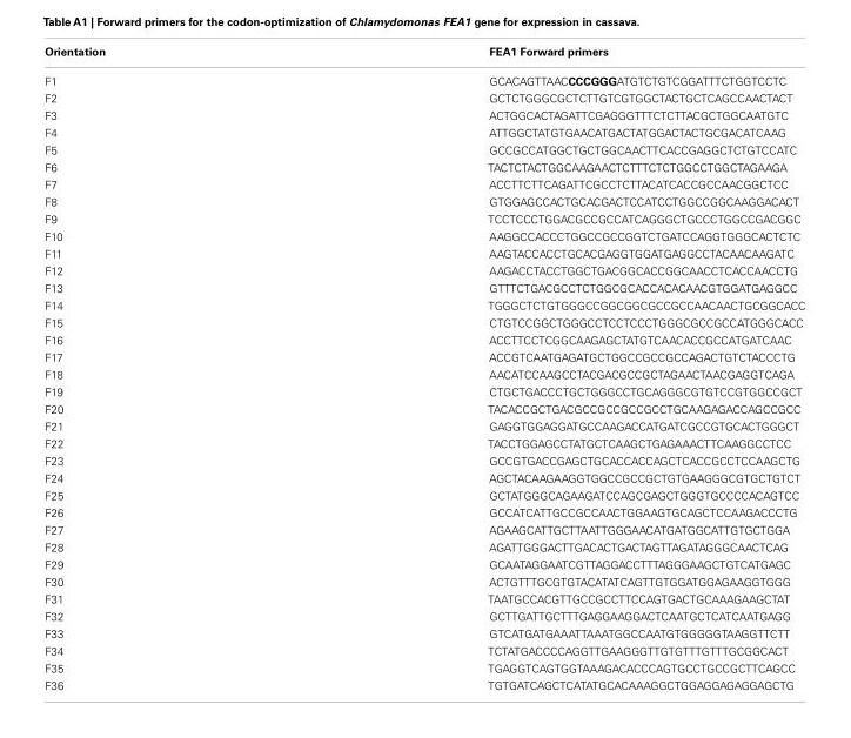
<table><thead><tr><td>Orientation</td><td>FEA1 Forward primers</td></tr></thead><tbody><tr><td>F1</td><td>GCACAGTTAACCCCGGGATGTCTGTCGGATTTCTGGTCCTC</td></tr><tr><td>F2</td><td>GCTCTGGGCGCTCTTGTCGTGGCTACTGCTCAGCCAACTACT</td></tr><tr><td>F3</td><td>ACTGGCACTAGATTCGAGGGTTTCTCTTACGCTGGCAATGTC</td></tr><tr><td>F4</td><td>ATTGGCTATGTGAACATGACTATGGACTACTGCGACATCAAG</td></tr><tr><td>F5</td><td>GCCGCCATGGCTGCTGGCAACTTCACCGAGGCTCTGTCCATC</td></tr><tr><td>F6</td><td>TACTCTACTGGCAAGAACTCTTTCTCTGGCCTGGCTAGAAGA</td></tr><tr><td>F7</td><td>ACCTTCTTCAGATTCGCCTCTTACATCACCGCCAACGGCTCC</td></tr><tr><td>F8</td><td>GTGGAGCCACTGCACGACTCCATCCTGGCCGGCAAGGACACT</td></tr><tr><td>F9</td><td>TCCTCCCTGGACGCCGCCATCAGGGCTGCCCTGGCCGACGGC</td></tr><tr><td>F10</td><td>AAGGCCACCCTGGCCGCCGGTCTGATCCAGGTGGGCACTCTC</td></tr><tr><td>F11</td><td>AAGTACCACCTGCACGAGGTGGATGAGGCCTACAACAAGATC</td></tr><tr><td>F12</td><td>AAGACCTACCTGGCTGACGGCACCGGCAACCTCACCAACCTG</td></tr><tr><td>F13</td><td>GTTTCTGACGCCTCTGGCGCACCACACAACGTGGATGAGGCC</td></tr><tr><td>F14</td><td>TGGGCTCTGTGGGCCGGCGGCGCCGCCAACAACTGCGGCACC</td></tr><tr><td>F15</td><td>CTGTCCGGCTGGGCCTCCTCCCTGGGCGCCGCCATGGGCACC</td></tr><tr><td>F16</td><td>ACCTTCCTCGGCAAGAGCTATGTCAACACCGCCATGATCAAC</td></tr><tr><td>F17</td><td>ACCGTCAATGAGATGCTGGCCGCCGCCAGACTGTCTACCCTG</td></tr><tr><td>F18</td><td>AACATCCAAGCCTACGACGCCGCTAGAACTAACGAGGTCAGA</td></tr><tr><td>F19</td><td>CTGCTGACCCTGCTGGGCCTGCAGGGCGTGTCCGTGGCCGCT</td></tr><tr><td>F20</td><td>TACACCGCTGACGCCGCCGCCGCCTGCAAGAGACCAGCCGCC</td></tr><tr><td>F21</td><td>GAGGTGGAGGATGCCAAGACCATGATCGCCGTGCACTGGGCT</td></tr><tr><td>F22</td><td>TACCTGGAGCCTATGCTCAAGCTGAGAAACTTCAAGGCCTCC</td></tr><tr><td>F23</td><td>GCCGTGACCGAGCTGCACCACCAGCTCACCGCCTCCAAGCTG</td></tr><tr><td>F24</td><td>AGCTACAAGAAGGTGGCCGCCGCTGTGAAGGGCGTGCTGTCT</td></tr><tr><td>F25</td><td>GCTATGGGCAGAAGATCCAGCGAGCTGGGTGCCCCACAGTCC</td></tr><tr><td>F26</td><td>GCCATCATTGCCGCCAACTGGAAGTGCAGCTCCAAGACCCTG</td></tr><tr><td>F27</td><td>AGAAGCATTGCTTAATTGGGAACATGATGGCATTGTGCTGGA</td></tr><tr><td>F28</td><td>AGATTGGGACTTGACACTGACTAGTTAGATAGGGCAACTCAG</td></tr><tr><td>F29</td><td>GCAATAGGAATCGTTAGGACCTTTAGGGAAGCTGTCATGAGC</td></tr><tr><td>F30</td><td>ACTGTTTGCGTGTACATATCAGTTGTGGATGGAGAAGGTGGG</td></tr><tr><td>F31</td><td>TAATGCCACGTTGCCGCCTTCCAGTGACTGCAAAGAAGCTAT</td></tr><tr><td>F32</td><td>GCTTGATTGCTTTGAGGAAGGACTCAATGCTCATCAATGAGG</td></tr><tr><td>F33</td><td>GTCATGATGAAATTAAATGGCCAATGTGGGGGTAAGGTTCTT</td></tr><tr><td>F34</td><td>TCTATGACCCCAGGTTGAAGGGTTGTGTTTGTTTGCGGCACT</td></tr><tr><td>F35</td><td>TGAGGTCAGTGGTAAAGACACCCAGTGCCTGCCGCTTCAGCC</td></tr><tr><td>F36</td><td>TGTGATCAGCTCATATGCACAAAGGCTGGAGGAGAGGAGCTG</td></tr></tbody></table>